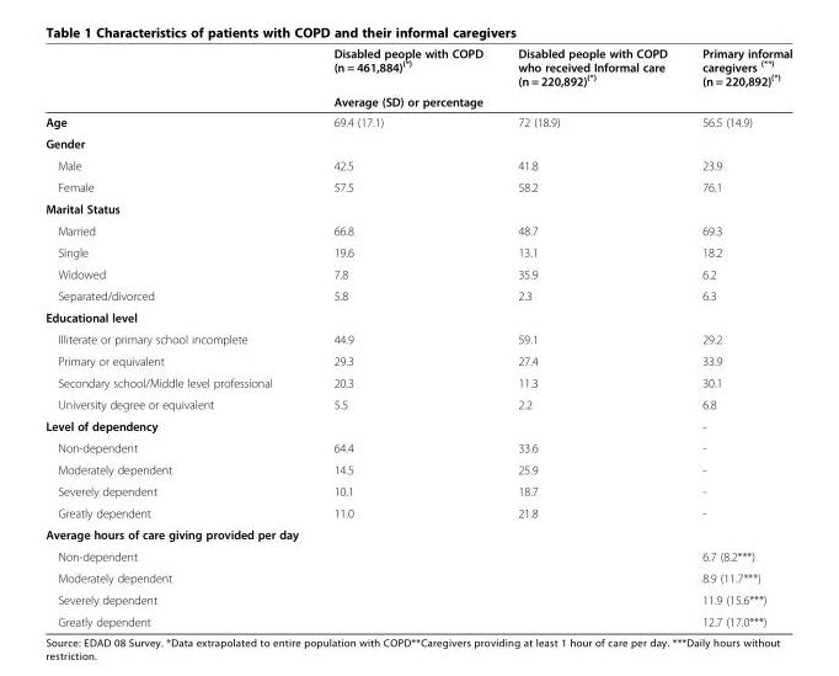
<table><thead><tr><td rowspan="2"></td><td>Disabled people with COPD (n = 461,884)<sup>(*)</sup></td><td>Disabled people with COPD who received Informal care (n = 220,892)<sup>(*)</sup></td><td>Primary informal caregivers <sup>(**)</sup> (n = 220,892)<sup>(*)</sup></td></tr><tr><td colspan="3">Average (SD) or percentage</td></tr></thead><tbody><tr><td>Age</td><td>69.4 (17.1)</td><td>72 (18.9)</td><td>56.5 (14.9)</td></tr><tr><td colspan="4">Gender</td></tr><tr><td>Male</td><td>42.5</td><td>41.8</td><td>23.9</td></tr><tr><td>Female</td><td>57.5</td><td>58.2</td><td>76.1</td></tr><tr><td colspan="4">Marital Status</td></tr><tr><td>Married</td><td>66.8</td><td>48.7</td><td>69.3</td></tr><tr><td>Single</td><td>19.6</td><td>13.1</td><td>18.2</td></tr><tr><td>Widowed</td><td>7.8</td><td>35.9</td><td>6.2</td></tr><tr><td>Separated/divorced</td><td>5.8</td><td>2.3</td><td>6.3</td></tr><tr><td colspan="4">Educational level</td></tr><tr><td>Illiterate or primary school incomplete</td><td>44.9</td><td>59.1</td><td>29.2</td></tr><tr><td>Primary or equivalent</td><td>29.3</td><td>27.4</td><td>33.9</td></tr><tr><td>Secondary school/Middle level professional</td><td>20.3</td><td>11.3</td><td>30.1</td></tr><tr><td>University degree or equivalent</td><td>5.5</td><td>2.2</td><td>6.8</td></tr><tr><td>Level of dependency</td><td></td><td></td><td>-</td></tr><tr><td>Non-dependent</td><td>64.4</td><td>33.6</td><td>-</td></tr><tr><td>Moderately dependent</td><td>14.5</td><td>25.9</td><td>-</td></tr><tr><td>Severely dependent</td><td>10.1</td><td>18.7</td><td>-</td></tr><tr><td>Greatly dependent</td><td>11.0</td><td>21.8</td><td>-</td></tr><tr><td colspan="4">Average hours of care giving provided per day</td></tr><tr><td>Non-dependent</td><td></td><td></td><td>6.7 (8.2***)</td></tr><tr><td>Moderately dependent</td><td></td><td></td><td>8.9 (11.7***)</td></tr><tr><td>Severely dependent</td><td></td><td></td><td>11.9 (15.6***)</td></tr><tr><td>Greatly dependent</td><td></td><td></td><td>12.7 (17.0***)</td></tr></tbody></table>